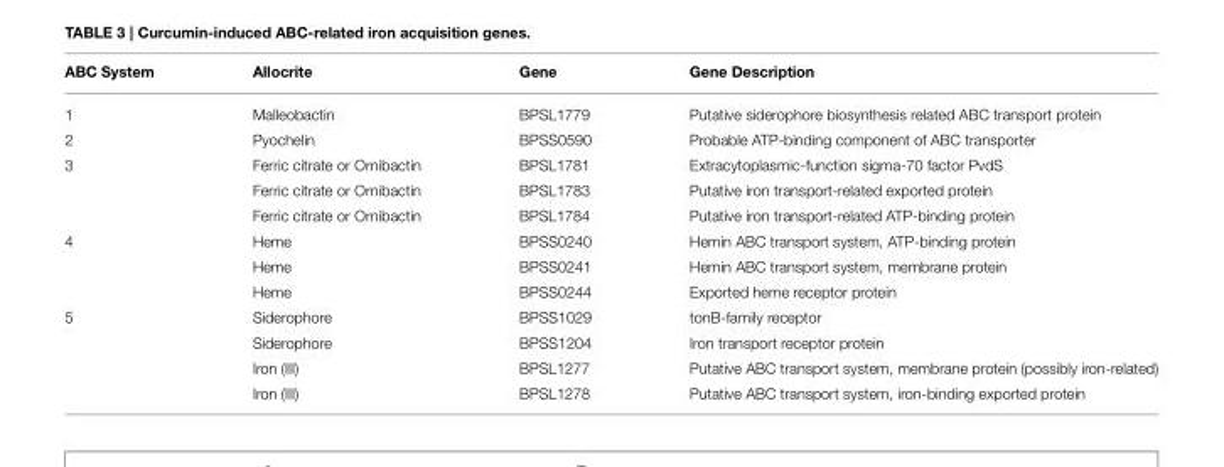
<table><thead><tr><td>ABC System</td><td>Allocrite</td><td>Gene</td><td>Gene Description</td></tr></thead><tbody><tr><td>1</td><td>Malleobactin</td><td>BPSL1779</td><td>Putative siderophore biosynthesis related ABC transport protein</td></tr><tr><td>2</td><td>Pyochelin</td><td>BPSS0590</td><td>Probable ATP-binding component of ABC transporter</td></tr><tr><td rowspan="3">3</td><td>Ferric citrate or Ornibactin</td><td>BPSL1781</td><td>Extracytoplasmic-function sigma-70 factor PvdS</td></tr><tr><td>Ferric citrate or Ornibactin</td><td>BPSL1783</td><td>Putative iron transport-related exported protein</td></tr><tr><td>Ferric citrate or Ornibactin</td><td>BPSL1784</td><td>Putative iron transport-related ATP-binding protein</td></tr><tr><td rowspan="3">4</td><td>Heme</td><td>BPSS0240</td><td>Hemin ABC transport system, ATP-binding protein</td></tr><tr><td>Heme</td><td>BPSS0241</td><td>Hemin ABC transport system, membrane protein</td></tr><tr><td>Heme</td><td>BPSS0244</td><td>Exported heme receptor protein</td></tr><tr><td rowspan="4">5</td><td>Siderophore</td><td>BPSS1029</td><td>tonB-family receptor</td></tr><tr><td>Siderophore</td><td>BPSS1204</td><td>Iron transport receptor protein</td></tr><tr><td>Iron (III)</td><td>BPSL1277</td><td>Putative ABC transport system, membrane protein (possibly iron-related)</td></tr><tr><td>Iron (III)</td><td>BPSL1278</td><td>Putative ABC transport system, iron-binding exported protein</td></tr></tbody></table>